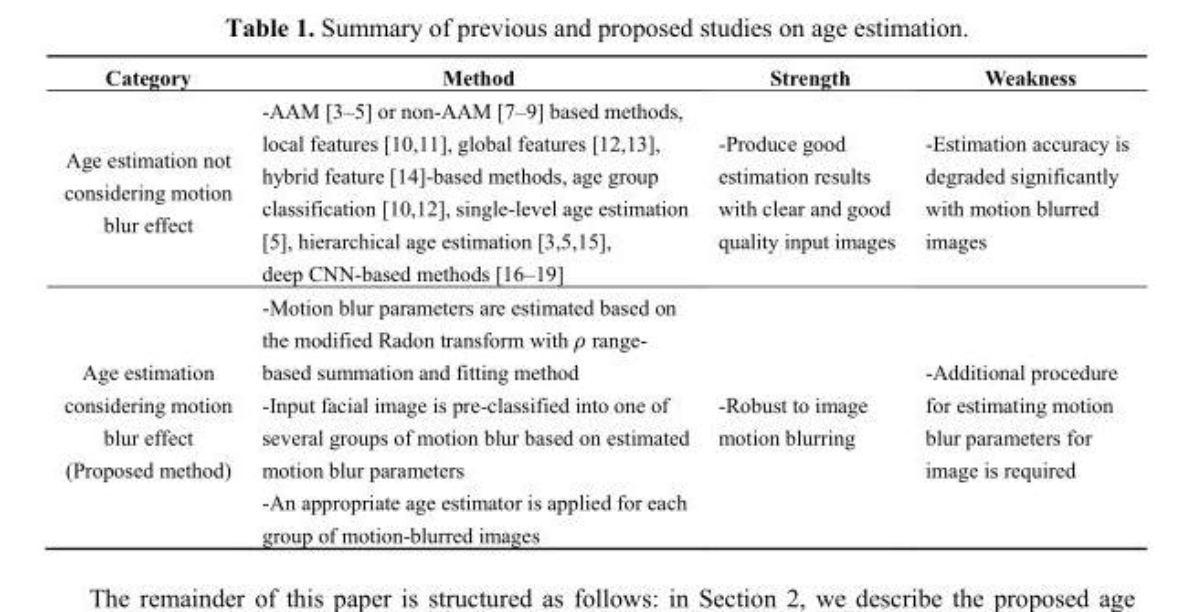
<table><thead><tr><td>Category</td><td>Method</td><td>Strength</td><td>Weakness</td></tr></thead><tbody><tr><td>Age estimation not considering motion blur effect</td><td>-AAM [3–5] or non-AAM [7–9] based methods, local features [10,11], global features [12,13], hybrid feature [14]-based methods, age group classification [10,12], single-level age estimation [5], hierarchical age estimation [3,5,15], deep CNN-based methods [16–19]</td><td>-Produce good estimation results with clear and good quality input images</td><td>-Estimation accuracy is degraded significantly with motion blurred images</td></tr><tr><td>Age estimation considering motion blur effect (Proposed method)</td><td>-Motion blur parameters are estimated based on the modified Radon transform with ρ range- based summation and fitting method -Input facial image is pre-classified into one of several groups of motion blur based on estimated motion blur parameters -An appropriate age estimator is applied for each group of motion-blurred images</td><td>-Robust to image motion blurring</td><td>-Additional procedure for estimating motion blur parameters for image is required</td></tr></tbody></table>